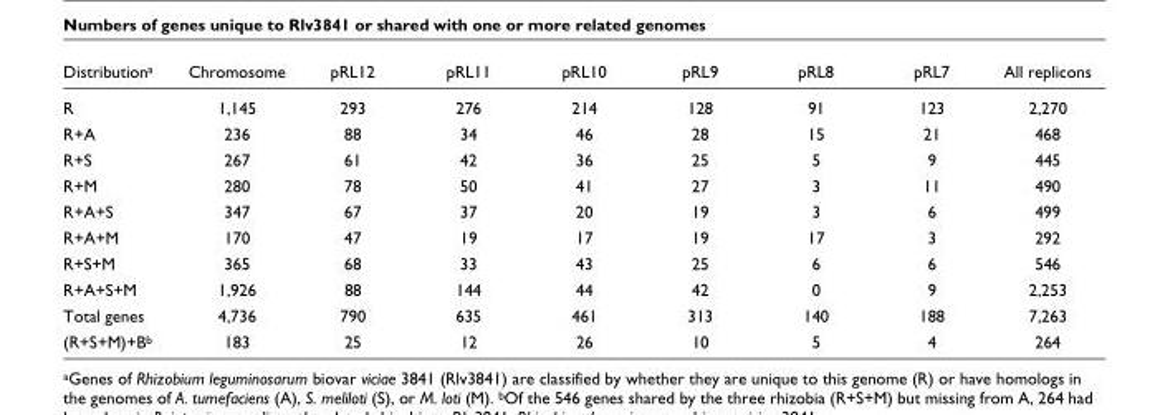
<table><thead><tr><td>Distributiona</td><td>Chromosome</td><td>pRL12</td><td>pRL11</td><td>pRL10</td><td>pRL9</td><td>pRL8</td><td>pRL7</td><td>All replicons</td></tr></thead><tbody><tr><td>R</td><td>1,145</td><td>293</td><td>276</td><td>214</td><td>128</td><td>91</td><td>123</td><td>2,270</td></tr><tr><td>R+A</td><td>236</td><td>88</td><td>34</td><td>46</td><td>28</td><td>15</td><td>21</td><td>468</td></tr><tr><td>R+S</td><td>267</td><td>61</td><td>42</td><td>36</td><td>25</td><td>5</td><td>9</td><td>445</td></tr><tr><td>R+M</td><td>280</td><td>78</td><td>50</td><td>41</td><td>27</td><td>3</td><td>11</td><td>490</td></tr><tr><td>R+A+S</td><td>347</td><td>67</td><td>37</td><td>20</td><td>19</td><td>3</td><td>6</td><td>499</td></tr><tr><td>R+A+M</td><td>170</td><td>47</td><td>19</td><td>17</td><td>19</td><td>17</td><td>3</td><td>292</td></tr><tr><td>R+S+M</td><td>365</td><td>68</td><td>33</td><td>43</td><td>25</td><td>6</td><td>6</td><td>546</td></tr><tr><td>R+A+S+M</td><td>1,926</td><td>88</td><td>144</td><td>44</td><td>42</td><td>0</td><td>9</td><td>2,253</td></tr><tr><td>Total genes</td><td>4,736</td><td>790</td><td>635</td><td>461</td><td>313</td><td>140</td><td>188</td><td>7,263</td></tr><tr><td>(R+S+M)+Bb</td><td>183</td><td>25</td><td>12</td><td>26</td><td>10</td><td>5</td><td>4</td><td>264</td></tr></tbody></table>